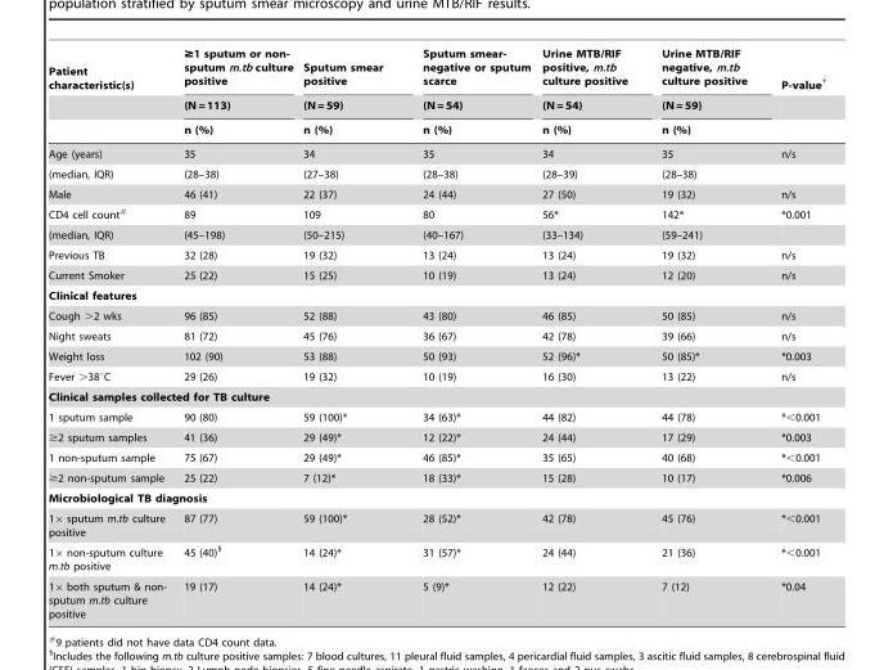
<table><thead><tr><td rowspan="3">Patient characteristic(s)</td><td rowspan="3">≥1 sputum or non- sputum m.tb culture positive (N = 113) n (%)</td><td rowspan="3">Sputum smear positive (N = 59) n (%)</td><td rowspan="3">Sputum smear- negative or sputum scarce (N = 54) n (%)</td><td rowspan="3">Urine MTB/RIF positive, m.tb culture positive (N = 54) n (%)</td><td rowspan="3">Urine MTB/RIF negative, m.tb culture positive (N = 59) n (%)</td><td rowspan="3">P-value†</td></tr><tr></tr><tr></tr></thead><tbody><tr><td>Age (years)</td><td>35</td><td>34</td><td>35</td><td>34</td><td>35</td><td>n/s</td></tr><tr><td>(median, IQR)</td><td>(28–38)</td><td>(27–38)</td><td>(28–38)</td><td>(28–39)</td><td>(28–38)</td><td></td></tr><tr><td>Male</td><td>46 (41)</td><td>22 (37)</td><td>24 (44)</td><td>27 (50)</td><td>19 (32)</td><td>n/s</td></tr><tr><td>CD4 cell count#</td><td>89</td><td>109</td><td>80</td><td>56*</td><td>142*</td><td>*0.001</td></tr><tr><td>(median, IQR)</td><td>(45–198)</td><td>(50–215)</td><td>(40–167)</td><td>(33–134)</td><td>(59–241)</td><td></td></tr><tr><td>Previous TB</td><td>32 (28)</td><td>19 (32)</td><td>13 (24)</td><td>13 (24)</td><td>19 (32)</td><td>n/s</td></tr><tr><td>Current Smoker</td><td>25 (22)</td><td>15 (25)</td><td>10 (19)</td><td>13 (24)</td><td>12 (20)</td><td>n/s</td></tr><tr><td colspan="7">Clinical features</td></tr><tr><td>Cough &gt;2 wks</td><td>96 (85)</td><td>52 (88)</td><td>43 (80)</td><td>46 (85)</td><td>50 (85)</td><td>n/s</td></tr><tr><td>Night sweats</td><td>81 (72)</td><td>45 (76)</td><td>36 (67)</td><td>42 (78)</td><td>39 (66)</td><td>n/s</td></tr><tr><td>Weight loss</td><td>102 (90)</td><td>53 (88)</td><td>50 (93)</td><td>52 (96)*</td><td>50 (85)*</td><td>*0.003</td></tr><tr><td>Fever &gt;38°C</td><td>29 (26)</td><td>19 (32)</td><td>10 (19)</td><td>16 (30)</td><td>13 (22)</td><td>n/s</td></tr><tr><td colspan="7">Clinical samples collected for TB culture</td></tr><tr><td>1 sputum sample</td><td>90 (80)</td><td>59 (100)*</td><td>34 (63)*</td><td>44 (82)</td><td>44 (78)</td><td>*&lt;0.001</td></tr><tr><td>≥2 sputum samples</td><td>41 (36)</td><td>29 (49)*</td><td>12 (22)*</td><td>24 (44)</td><td>17 (29)</td><td>*0.003</td></tr><tr><td>1 non-sputum sample</td><td>75 (67)</td><td>29 (49)*</td><td>46 (85)*</td><td>35 (65)</td><td>40 (68)</td><td>*&lt;0.001</td></tr><tr><td>≥2 non-sputum sample</td><td>25 (22)</td><td>7 (12)*</td><td>18 (33)*</td><td>15 (28)</td><td>10 (17)</td><td>*0.006</td></tr><tr><td colspan="7">Microbiological TB diagnosis</td></tr><tr><td>1× sputum m.tb culture positive</td><td>87 (77)</td><td>59 (100)*</td><td>28 (52)*</td><td>42 (78)</td><td>45 (76)</td><td>*&lt;0.001</td></tr><tr><td>1× non-sputum culture m.tb positive</td><td>45 (40)§</td><td>14 (24)*</td><td>31 (57)*</td><td>24 (44)</td><td>21 (36)</td><td>*&lt;0.001</td></tr><tr><td>1× both sputum &amp; non- sputum m.tb culture positive</td><td>19 (17)</td><td>14 (24)*</td><td>5 (9)*</td><td>12 (22)</td><td>7 (12)</td><td>*0.04</td></tr></tbody></table>